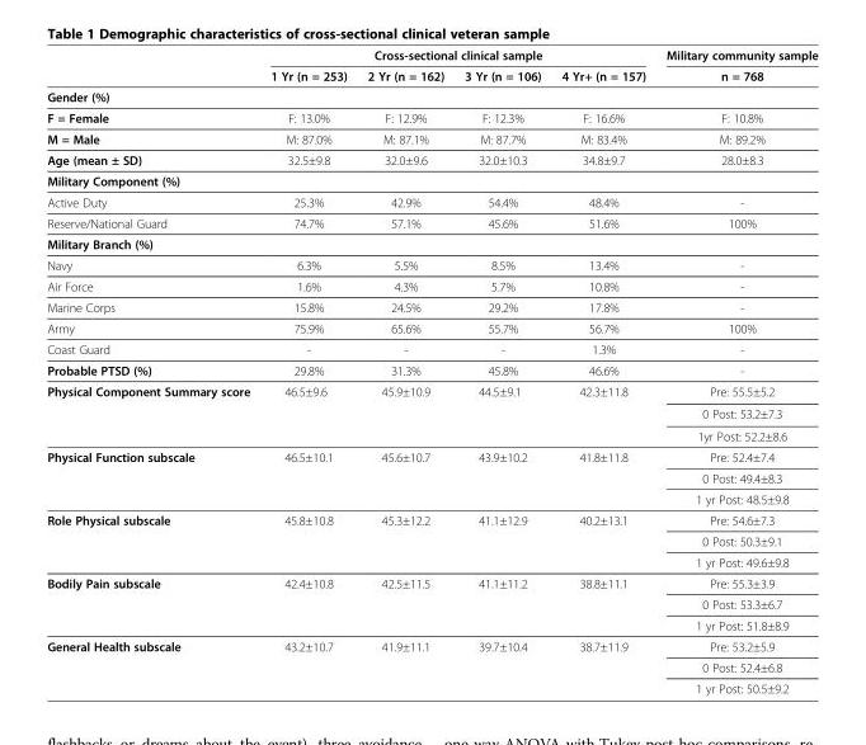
<table><thead><tr><td rowspan="2"></td><td colspan="4">Cross-sectional clinical sample</td><td rowspan="2">Military community sample n = 768</td></tr><tr><td>1 Yr (n = 253)</td><td>2 Yr (n = 162)</td><td>3 Yr (n = 106)</td><td>4 Yr+ (n = 157)</td></tr></thead><tbody><tr><td colspan="6">Gender (%)</td></tr><tr><td>F = Female</td><td>F: 13.0%</td><td>F: 12.9%</td><td>F: 12.3%</td><td>F: 16.6%</td><td>F: 10.8%</td></tr><tr><td>M = Male</td><td>M: 87.0%</td><td>M: 87.1%</td><td>M: 87.7%</td><td>M: 83.4%</td><td>M: 89.2%</td></tr><tr><td>Age (mean ± SD)</td><td>32.5±9.8</td><td>32.0±9.6</td><td>32.0±10.3</td><td>34.8±9.7</td><td>28.0±8.3</td></tr><tr><td colspan="6">Military Component (%)</td></tr><tr><td>Active Duty</td><td>25.3%</td><td>42.9%</td><td>54.4%</td><td>48.4%</td><td>-</td></tr><tr><td>Reserve/National Guard</td><td>74.7%</td><td>57.1%</td><td>45.6%</td><td>51.6%</td><td>100%</td></tr><tr><td colspan="6">Military Branch (%)</td></tr><tr><td>Navy</td><td>6.3%</td><td>5.5%</td><td>8.5%</td><td>13.4%</td><td>-</td></tr><tr><td>Air Force</td><td>1.6%</td><td>4.3%</td><td>5.7%</td><td>10.8%</td><td>-</td></tr><tr><td>Marine Corps</td><td>15.8%</td><td>24.5%</td><td>29.2%</td><td>17.8%</td><td>-</td></tr><tr><td>Army</td><td>75.9%</td><td>65.6%</td><td>55.7%</td><td>56.7%</td><td>100%</td></tr><tr><td>Coast Guard</td><td>-</td><td>-</td><td>-</td><td>1.3%</td><td>-</td></tr><tr><td>Probable PTSD (%)</td><td>29.8%</td><td>31.3%</td><td>45.8%</td><td>46.6%</td><td>-</td></tr><tr><td rowspan="3">Physical Component Summary score</td><td>46.5±9.6</td><td>45.9±10.9</td><td>44.5±9.1</td><td>42.3±11.8</td><td>Pre: 55.5±5.2</td></tr><tr><td></td><td></td><td></td><td></td><td>0 Post: 53.2±7.3</td></tr><tr><td></td><td></td><td></td><td></td><td>1yr Post: 52.2±8.6</td></tr><tr><td rowspan="3">Physical Function subscale</td><td>46.5±10.1</td><td>45.6±10.7</td><td>43.9±10.2</td><td>41.8±11.8</td><td>Pre: 52.4±7.4</td></tr><tr><td></td><td></td><td></td><td></td><td>0 Post: 49.4±8.3</td></tr><tr><td></td><td></td><td></td><td></td><td>1 yr Post: 48.5±9.8</td></tr><tr><td rowspan="3">Role Physical subscale</td><td>45.8±10.8</td><td>45.3±12.2</td><td>41.1±12.9</td><td>40.2±13.1</td><td>Pre: 54.6±7.3</td></tr><tr><td></td><td></td><td></td><td></td><td>0 Post: 50.3±9.1</td></tr><tr><td></td><td></td><td></td><td></td><td>1 yr Post: 49.6±9.8</td></tr><tr><td rowspan="3">Bodily Pain subscale</td><td>42.4±10.8</td><td>42.5±11.5</td><td>41.1±11.2</td><td>38.8±11.1</td><td>Pre: 55.3±3.9</td></tr><tr><td></td><td></td><td></td><td></td><td>0 Post: 53.3±6.7</td></tr><tr><td></td><td></td><td></td><td></td><td>1 yr Post: 51.8±8.9</td></tr><tr><td rowspan="3">General Health subscale</td><td>43.2±10.7</td><td>41.9±11.1</td><td>39.7±10.4</td><td>38.7±11.9</td><td>Pre: 53.2±5.9</td></tr><tr><td></td><td></td><td></td><td></td><td>0 Post: 52.4±6.8</td></tr><tr><td></td><td></td><td></td><td></td><td>1 yr Post: 50.5±9.2</td></tr></tbody></table>